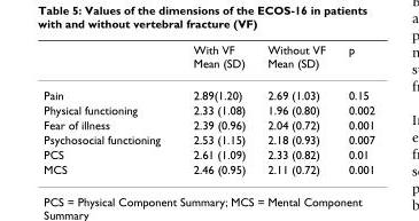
<table><thead><tr><td></td><td>With VF Mean (SD)</td><td>Without VF Mean (SD)</td><td>p</td></tr></thead><tbody><tr><td>Pain</td><td>2.89(1.20)</td><td>2.69 (1.03)</td><td>0.15</td></tr><tr><td>Physical functioning</td><td>2.33 (1.08)</td><td>1.96 (0.80)</td><td>0.002</td></tr><tr><td>Fear of illness</td><td>2.39 (0.96)</td><td>2.04 (0.72)</td><td>0.001</td></tr><tr><td>Psychosocial functioning</td><td>2.53 (1.15)</td><td>2.18 (0.93)</td><td>0.007</td></tr><tr><td>PCS</td><td>2.61 (1.09)</td><td>2.33 (0.82)</td><td>0.01</td></tr><tr><td>MCS</td><td>2.46 (0.95)</td><td>2.11 (0.72)</td><td>0.001</td></tr></tbody></table>